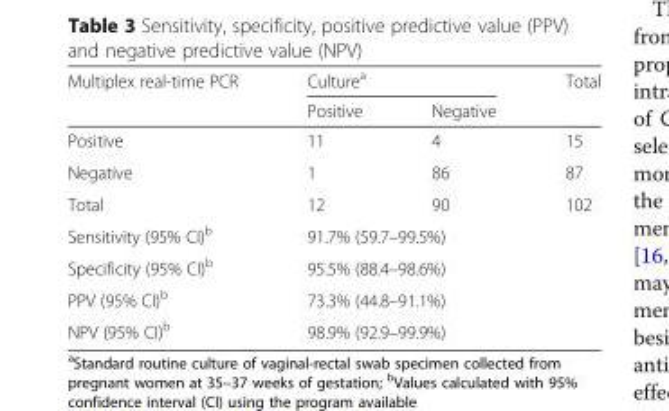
<table><thead><tr><td rowspan="2">Multiplex real-time PCR</td><td colspan="2">Culture<sup>a</sup></td><td rowspan="2">Total</td></tr><tr><td>Positive</td><td>Negative</td></tr></thead><tbody><tr><td>Positive</td><td>11</td><td>4</td><td>15</td></tr><tr><td>Negative</td><td>1</td><td>86</td><td>87</td></tr><tr><td>Total</td><td>12</td><td>90</td><td>102</td></tr><tr><td>Sensitivity (95% CI)<sup>b</sup></td><td colspan="3">91.7% (59.7–99.5%)</td></tr><tr><td>Specificity (95% CI)<sup>b</sup></td><td colspan="3">95.5% (88.4–98.6%)</td></tr><tr><td>PPV (95% CI)<sup>b</sup></td><td colspan="3">73.3% (44.8–91.1%)</td></tr><tr><td>NPV (95% CI)<sup>b</sup></td><td colspan="3">98.9% (92.9–99.9%)</td></tr></tbody></table>